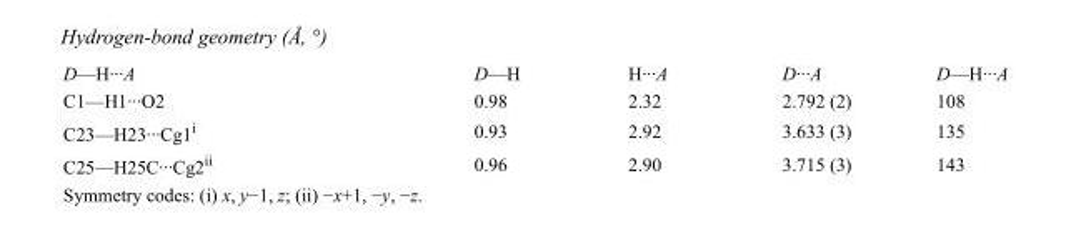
<table><tbody><tr><td>D—H···A</td><td>D—H</td><td>H···A</td><td>D···A</td><td>D—H···A</td></tr><tr><td>C1—H1···O2</td><td>0.98</td><td>2.32</td><td>2.792 (2)</td><td>108</td></tr><tr><td>C23—H23···Cg1<sup>i</sup></td><td>0.93</td><td>2.92</td><td>3.633 (3)</td><td>135</td></tr><tr><td>C25—H25C···Cg2<sup>ii</sup></td><td>0.96</td><td>2.90</td><td>3.715 (3)</td><td>143</td></tr></tbody></table>